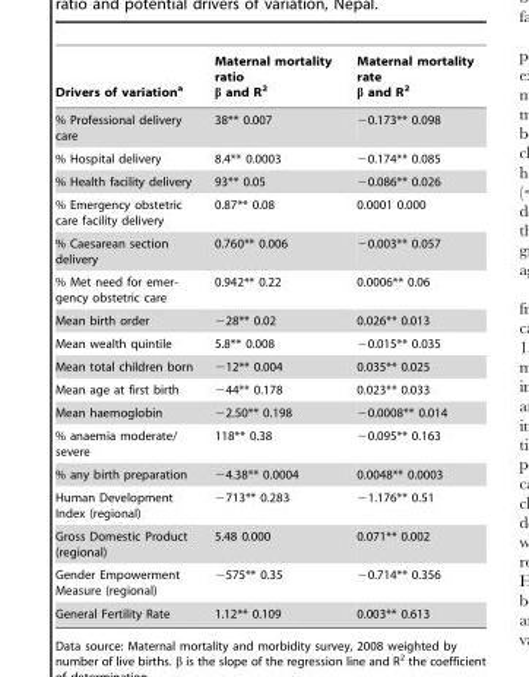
<table><thead><tr><td>Drivers of variation<sup>a</sup></td><td>Maternal mortality ratio β and R<sup>2</sup></td><td>Maternal mortality rate β and R<sup>2</sup></td></tr></thead><tbody><tr><td>% Professional delivery care</td><td>38** 0.007</td><td>−0.173** 0.098</td></tr><tr><td>% Hospital delivery</td><td>8.4** 0.0003</td><td>−0.174** 0.085</td></tr><tr><td>% Health facility delivery</td><td>93** 0.05</td><td>−0.086** 0.026</td></tr><tr><td>% Emergency obstetric care facility delivery</td><td>0.87** 0.08</td><td>0.0001 0.000</td></tr><tr><td>% Caesarean section delivery</td><td>0.760** 0.006</td><td>−0.003** 0.057</td></tr><tr><td>% Met need for emer- gency obstetric care</td><td>0.942** 0.22</td><td>0.0006** 0.06</td></tr><tr><td>Mean birth order</td><td>−28** 0.02</td><td>0.026** 0.013</td></tr><tr><td>Mean wealth quintile</td><td>5.8** 0.008</td><td>−0.015** 0.035</td></tr><tr><td>Mean total children born</td><td>−12** 0.004</td><td>0.035** 0.025</td></tr><tr><td>Mean age at first birth</td><td>−44** 0.178</td><td>0.023** 0.033</td></tr><tr><td>Mean haemoglobin</td><td>−2.50** 0.198</td><td>−0.0008** 0.014</td></tr><tr><td>% anaemia moderate/ severe</td><td>118** 0.38</td><td>−0.095** 0.163</td></tr><tr><td>% any birth preparation</td><td>−4.38** 0.0004</td><td>0.0048** 0.0003</td></tr><tr><td>Human Development Index (regional)</td><td>−713** 0.283</td><td>−1.176** 0.51</td></tr><tr><td>Gross Domestic Product (regional)</td><td>5.48 0.000</td><td>0.071** 0.002</td></tr><tr><td>Gender Empowerment Measure (regional)</td><td>−575** 0.35</td><td>−0.714** 0.356</td></tr><tr><td>General Fertility Rate</td><td>1.12** 0.109</td><td>0.003** 0.613</td></tr></tbody></table>